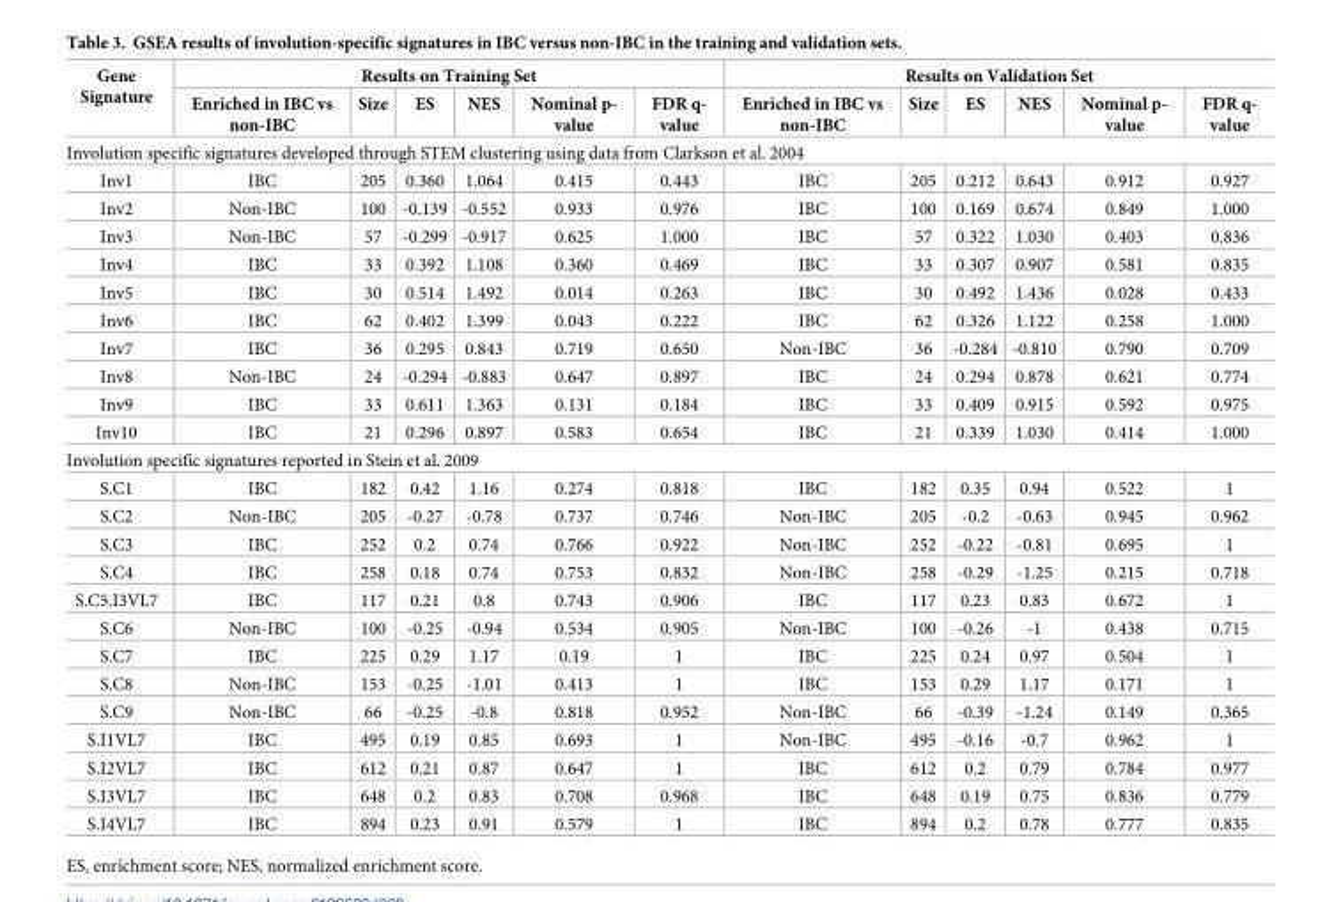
<table><thead><tr><td rowspan="2">Gene Signature</td><td colspan="6">Results on Training Set</td><td colspan="6">Results on Validation Set</td></tr><tr><td>Enriched in IBC vs non-IBC</td><td>Size</td><td>ES</td><td>NES</td><td>Nominal p- value</td><td>FDR q- value</td><td>Enriched in IBC vs non-IBC</td><td>Size</td><td>ES</td><td>NES</td><td>Nominal p- value</td><td>FDR q- value</td></tr></thead><tbody><tr><td colspan="13">Involution specific signatures developed through STEM clustering using data from Clarkson et al. 2004</td></tr><tr><td>Inv1</td><td>IBC</td><td>205</td><td>0.360</td><td>1.064</td><td>0.415</td><td>0.443</td><td>IBC</td><td>205</td><td>0.212</td><td>0.643</td><td>0.912</td><td>0.927</td></tr><tr><td>Inv2</td><td>Non-IBC</td><td>100</td><td>-0.139</td><td>-0.552</td><td>0.933</td><td>0.976</td><td>IBC</td><td>100</td><td>0.169</td><td>0.674</td><td>0.849</td><td>1.000</td></tr><tr><td>Inv3</td><td>Non-IBC</td><td>57</td><td>-0.299</td><td>-0.917</td><td>0.625</td><td>1.000</td><td>IBC</td><td>57</td><td>0.322</td><td>1.030</td><td>0.403</td><td>0.836</td></tr><tr><td>Inv4</td><td>IBC</td><td>33</td><td>0.392</td><td>1.108</td><td>0.360</td><td>0.469</td><td>IBC</td><td>33</td><td>0.307</td><td>0.907</td><td>0.581</td><td>0.835</td></tr><tr><td>Inv5</td><td>IBC</td><td>30</td><td>0.514</td><td>1.492</td><td>0.014</td><td>0.263</td><td>IBC</td><td>30</td><td>0.492</td><td>1.436</td><td>0.028</td><td>0.433</td></tr><tr><td>Inv6</td><td>IBC</td><td>62</td><td>0.402</td><td>1.399</td><td>0.043</td><td>0.222</td><td>IBC</td><td>62</td><td>0.326</td><td>1.122</td><td>0.258</td><td>1.000</td></tr><tr><td>Inv7</td><td>IBC</td><td>36</td><td>0.295</td><td>0.843</td><td>0.719</td><td>0.650</td><td>Non-IBC</td><td>36</td><td>-0.284</td><td>-0.810</td><td>0.790</td><td>0.709</td></tr><tr><td>Inv8</td><td>Non-IBC</td><td>24</td><td>-0.294</td><td>-0.883</td><td>0.647</td><td>0.897</td><td>IBC</td><td>24</td><td>0.294</td><td>0.878</td><td>0.621</td><td>0.774</td></tr><tr><td>Inv9</td><td>IBC</td><td>33</td><td>0.611</td><td>1.363</td><td>0.131</td><td>0.184</td><td>IBC</td><td>33</td><td>0.409</td><td>0.915</td><td>0.592</td><td>0.975</td></tr><tr><td>Inv10</td><td>IBC</td><td>21</td><td>0.296</td><td>0.897</td><td>0.583</td><td>0.654</td><td>IBC</td><td>21</td><td>0.339</td><td>1.030</td><td>0.414</td><td>1.000</td></tr><tr><td colspan="13">Involution specific signatures reported in Stein et al. 2009</td></tr><tr><td>S.C1</td><td>IBC</td><td>182</td><td>0.42</td><td>1.16</td><td>0.274</td><td>0.818</td><td>IBC</td><td>182</td><td>0.35</td><td>0.94</td><td>0.522</td><td>1</td></tr><tr><td>S.C2</td><td>Non-IBC</td><td>205</td><td>-0.27</td><td>-0.78</td><td>0.737</td><td>0.746</td><td>Non-IBC</td><td>205</td><td>-0.2</td><td>-0.63</td><td>0.945</td><td>0.962</td></tr><tr><td>S.C3</td><td>IBC</td><td>252</td><td>0.2</td><td>0.74</td><td>0.766</td><td>0.922</td><td>Non-IBC</td><td>252</td><td>-0.22</td><td>-0.81</td><td>0.695</td><td>1</td></tr><tr><td>S.C4</td><td>IBC</td><td>258</td><td>0.18</td><td>0.74</td><td>0.753</td><td>0.832</td><td>Non-IBC</td><td>258</td><td>-0.29</td><td>-1.25</td><td>0.215</td><td>0.718</td></tr><tr><td>S.C5.I3VL7</td><td>IBC</td><td>117</td><td>0.21</td><td>0.8</td><td>0.743</td><td>0.906</td><td>IBC</td><td>117</td><td>0.23</td><td>0.83</td><td>0.672</td><td>1</td></tr><tr><td>S.C6</td><td>Non-IBC</td><td>100</td><td>-0.25</td><td>-0.94</td><td>0.534</td><td>0.905</td><td>Non-IBC</td><td>100</td><td>-0.26</td><td>-1</td><td>0.438</td><td>0.715</td></tr><tr><td>S.C7</td><td>IBC</td><td>225</td><td>0.29</td><td>1.17</td><td>0.19</td><td>1</td><td>IBC</td><td>225</td><td>0.24</td><td>0.97</td><td>0.504</td><td>1</td></tr><tr><td>S.C8</td><td>Non-IBC</td><td>153</td><td>-0.25</td><td>-1.01</td><td>0.413</td><td>1</td><td>IBC</td><td>153</td><td>0.29</td><td>1.17</td><td>0.171</td><td>1</td></tr><tr><td>S.C9</td><td>Non-IBC</td><td>66</td><td>-0.25</td><td>-0.8</td><td>0.818</td><td>0.952</td><td>Non-IBC</td><td>66</td><td>-0.39</td><td>-1.24</td><td>0.149</td><td>0.365</td></tr><tr><td>S.I1VL7</td><td>IBC</td><td>495</td><td>0.19</td><td>0.85</td><td>0.693</td><td>1</td><td>Non-IBC</td><td>495</td><td>-0.16</td><td>-0.7</td><td>0.962</td><td>1</td></tr><tr><td>S.I2VL7</td><td>IBC</td><td>612</td><td>0.21</td><td>0.87</td><td>0.647</td><td>1</td><td>IBC</td><td>612</td><td>0.2</td><td>0.79</td><td>0.784</td><td>0.977</td></tr><tr><td>S.I3VL7</td><td>IBC</td><td>648</td><td>0.2</td><td>0.83</td><td>0.708</td><td>0.968</td><td>IBC</td><td>648</td><td>0.19</td><td>0.75</td><td>0.836</td><td>0.779</td></tr><tr><td>S.I4VL7</td><td>IBC</td><td>894</td><td>0.23</td><td>0.91</td><td>0.579</td><td>1</td><td>IBC</td><td>894</td><td>0.2</td><td>0.78</td><td>0.777</td><td>0.835</td></tr></tbody></table>